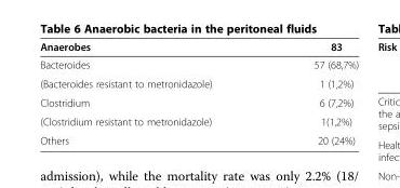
<table><thead><tr><td>Anaerobes</td><td>83</td></tr></thead><tbody><tr><td>Bacteroides</td><td>57 (68,7%)</td></tr><tr><td>(Bacteroides resistant to metronidazole)</td><td>1 (1,2%)</td></tr><tr><td>Clostridium</td><td>6 (7,2%)</td></tr><tr><td>(Clostridium resistant to metronidazole)</td><td>1(1,2%)</td></tr><tr><td>Others</td><td>20 (24%)</td></tr></tbody></table>